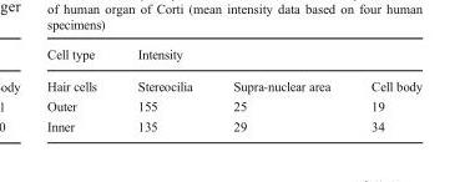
<table><thead><tr><td rowspan="2">Cell type Hair cells</td><td colspan="3">Intensity</td></tr><tr><td>Stereocilia</td><td>Supra-nuclear area</td><td>Cell body</td></tr></thead><tbody><tr><td>Outer</td><td>155</td><td>25</td><td>19</td></tr><tr><td>Inner</td><td>135</td><td>29</td><td>34</td></tr></tbody></table>